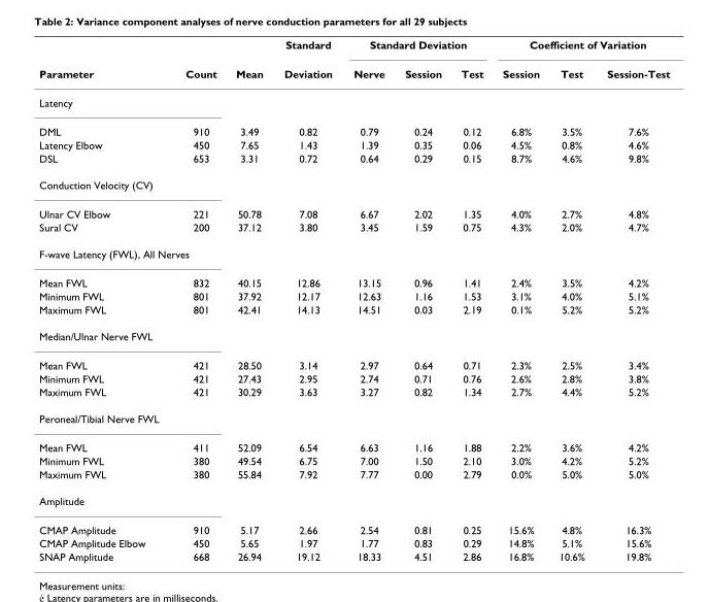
<table><thead><tr><td rowspan="2">Parameter</td><td rowspan="2">Count</td><td rowspan="2">Mean</td><td rowspan="2">Standard Deviation</td><td colspan="3">Standard Deviation</td><td colspan="3">Coefficient of Variation</td></tr><tr><td>Nerve</td><td>Session</td><td>Test</td><td>Session</td><td>Test</td><td>Session-Test</td></tr></thead><tbody><tr><td colspan="10">Latency</td></tr><tr><td>DML</td><td>910</td><td>3.49</td><td>0.82</td><td>0.79</td><td>0.24</td><td>0.12</td><td>6.8%</td><td>3.5%</td><td>7.6%</td></tr><tr><td>Latency Elbow</td><td>450</td><td>7.65</td><td>1.43</td><td>1.39</td><td>0.35</td><td>0.06</td><td>4.5%</td><td>0.8%</td><td>4.6%</td></tr><tr><td>DSL</td><td>653</td><td>3.31</td><td>0.72</td><td>0.64</td><td>0.29</td><td>0.15</td><td>8.7%</td><td>4.6%</td><td>9.8%</td></tr><tr><td colspan="10">Conduction Velocity (CV)</td></tr><tr><td>Ulnar CV Elbow</td><td>221</td><td>50.78</td><td>7.08</td><td>6.67</td><td>2.02</td><td>1.35</td><td>4.0%</td><td>2.7%</td><td>4.8%</td></tr><tr><td>Sural CV</td><td>200</td><td>37.12</td><td>3.80</td><td>3.45</td><td>1.59</td><td>0.75</td><td>4.3%</td><td>2.0%</td><td>4.7%</td></tr><tr><td colspan="10">F-wave Latency (FWL), All Nerves</td></tr><tr><td>Mean FWL</td><td>832</td><td>40.15</td><td>12.86</td><td>13.15</td><td>0.96</td><td>1.41</td><td>2.4%</td><td>3.5%</td><td>4.2%</td></tr><tr><td>Minimum FWL</td><td>801</td><td>37.92</td><td>12.17</td><td>12.63</td><td>1.16</td><td>1.53</td><td>3.1%</td><td>4.0%</td><td>5.1%</td></tr><tr><td>Maximum FWL</td><td>801</td><td>42.41</td><td>14.13</td><td>14.51</td><td>0.03</td><td>2.19</td><td>0.1%</td><td>5.2%</td><td>5.2%</td></tr><tr><td colspan="10">Median/Ulnar Nerve FWL</td></tr><tr><td>Mean FWL</td><td>421</td><td>28.50</td><td>3.14</td><td>2.97</td><td>0.64</td><td>0.71</td><td>2.3%</td><td>2.5%</td><td>3.4%</td></tr><tr><td>Minimum FWL</td><td>421</td><td>27.43</td><td>2.95</td><td>2.74</td><td>0.71</td><td>0.76</td><td>2.6%</td><td>2.8%</td><td>3.8%</td></tr><tr><td>Maximum FWL</td><td>421</td><td>30.29</td><td>3.63</td><td>3.27</td><td>0.82</td><td>1.34</td><td>2.7%</td><td>4.4%</td><td>5.2%</td></tr><tr><td colspan="10">Peroneal/Tibial Nerve FWL</td></tr><tr><td>Mean FWL</td><td>411</td><td>52.09</td><td>6.54</td><td>6.63</td><td>1.16</td><td>1.88</td><td>2.2%</td><td>3.6%</td><td>4.2%</td></tr><tr><td>Minimum FWL</td><td>380</td><td>49.54</td><td>6.75</td><td>7.00</td><td>1.50</td><td>2.10</td><td>3.0%</td><td>4.2%</td><td>5.2%</td></tr><tr><td>Maximum FWL</td><td>380</td><td>55.84</td><td>7.92</td><td>7.77</td><td>0.00</td><td>2.79</td><td>0.0%</td><td>5.0%</td><td>5.0%</td></tr><tr><td colspan="10">Amplitude</td></tr><tr><td>CMAP Amplitude</td><td>910</td><td>5.17</td><td>2.66</td><td>2.54</td><td>0.81</td><td>0.25</td><td>15.6%</td><td>4.8%</td><td>16.3%</td></tr><tr><td>CMAP Amplitude Elbow</td><td>450</td><td>5.65</td><td>1.97</td><td>1.77</td><td>0.83</td><td>0.29</td><td>14.8%</td><td>5.1%</td><td>15.6%</td></tr><tr><td>SNAP Amplitude</td><td>668</td><td>26.94</td><td>19.12</td><td>18.33</td><td>4.51</td><td>2.86</td><td>16.8%</td><td>10.6%</td><td>19.8%</td></tr></tbody></table>